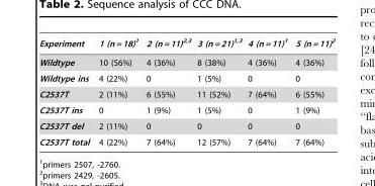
<table><thead><tr><td>Experiment</td><td>1 (n = 18)1</td><td>2 (n = 11)2,3</td><td>3 (n = 21)1,3</td><td>4 (n = 11)1</td><td>5 (n = 11)2</td></tr></thead><tbody><tr><td>Wildtype</td><td>10 (56%)</td><td>4 (36%)</td><td>8 (38%)</td><td>4 (36%)</td><td>4 (36%)</td></tr><tr><td>Wildtype ins</td><td>4 (22%)</td><td>0</td><td>1 (5%)</td><td>0</td><td>0</td></tr><tr><td>C2537T</td><td>2 (11%)</td><td>6 (55%)</td><td>11 (52%)</td><td>7 (64%)</td><td>6 (55%)</td></tr><tr><td>C2537T ins</td><td>0</td><td>1 (9%)</td><td>1 (5%)</td><td>0</td><td>1 (9%)</td></tr><tr><td>C2537T del</td><td>2 (11%)</td><td>0</td><td>0</td><td>0</td><td>0</td></tr><tr><td>C2537T total</td><td>4 (22%)</td><td>7 (64%)</td><td>12 (57%)</td><td>7 (64%)</td><td>7 (64%)</td></tr></tbody></table>